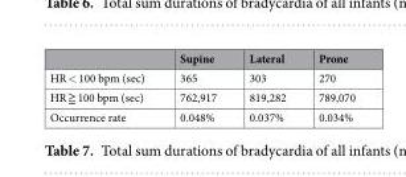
<table><thead><tr><td></td><td>Supine</td><td>Lateral</td><td>Prone</td></tr></thead><tbody><tr><td>HR &lt; 100 bpm (sec)</td><td>365</td><td>303</td><td>270</td></tr><tr><td>HR ≧ 100 bpm (sec)</td><td>762,917</td><td>819,282</td><td>789,070</td></tr><tr><td>Occurrence rate</td><td>0.048%</td><td>0.037%</td><td>0.034%</td></tr></tbody></table>